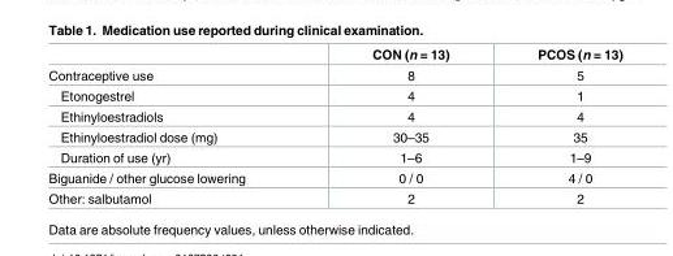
<table><thead><tr><td></td><td>CON (n = 13)</td><td>PCOS (n = 13)</td></tr></thead><tbody><tr><td>Contraceptive use</td><td>8</td><td>5</td></tr><tr><td>Etonogestrel</td><td>4</td><td>1</td></tr><tr><td>Ethinyloestradiols</td><td>4</td><td>4</td></tr><tr><td>Ethinyloestradiol dose (mg)</td><td>30–35</td><td>35</td></tr><tr><td>Duration of use (yr)</td><td>1–6</td><td>1–9</td></tr><tr><td>Biguanide / other glucose lowering</td><td>0 / 0</td><td>4 / 0</td></tr><tr><td>Other: salbutamol</td><td>2</td><td>2</td></tr></tbody></table>